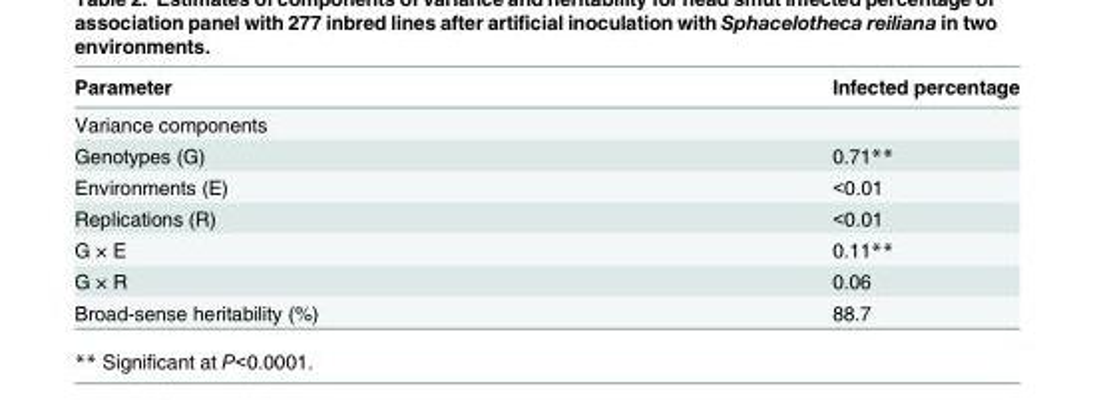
<table><thead><tr><td>Parameter</td><td>Infected percentage</td></tr></thead><tbody><tr><td colspan="2">Variance components</td></tr><tr><td>Genotypes (G)</td><td>0.71**</td></tr><tr><td>Environments (E)</td><td>&lt;0.01</td></tr><tr><td>Replications (R)</td><td>&lt;0.01</td></tr><tr><td>G × E</td><td>0.11**</td></tr><tr><td>G × R</td><td>0.06</td></tr><tr><td>Broad-sense heritability (%)</td><td>88.7</td></tr></tbody></table>